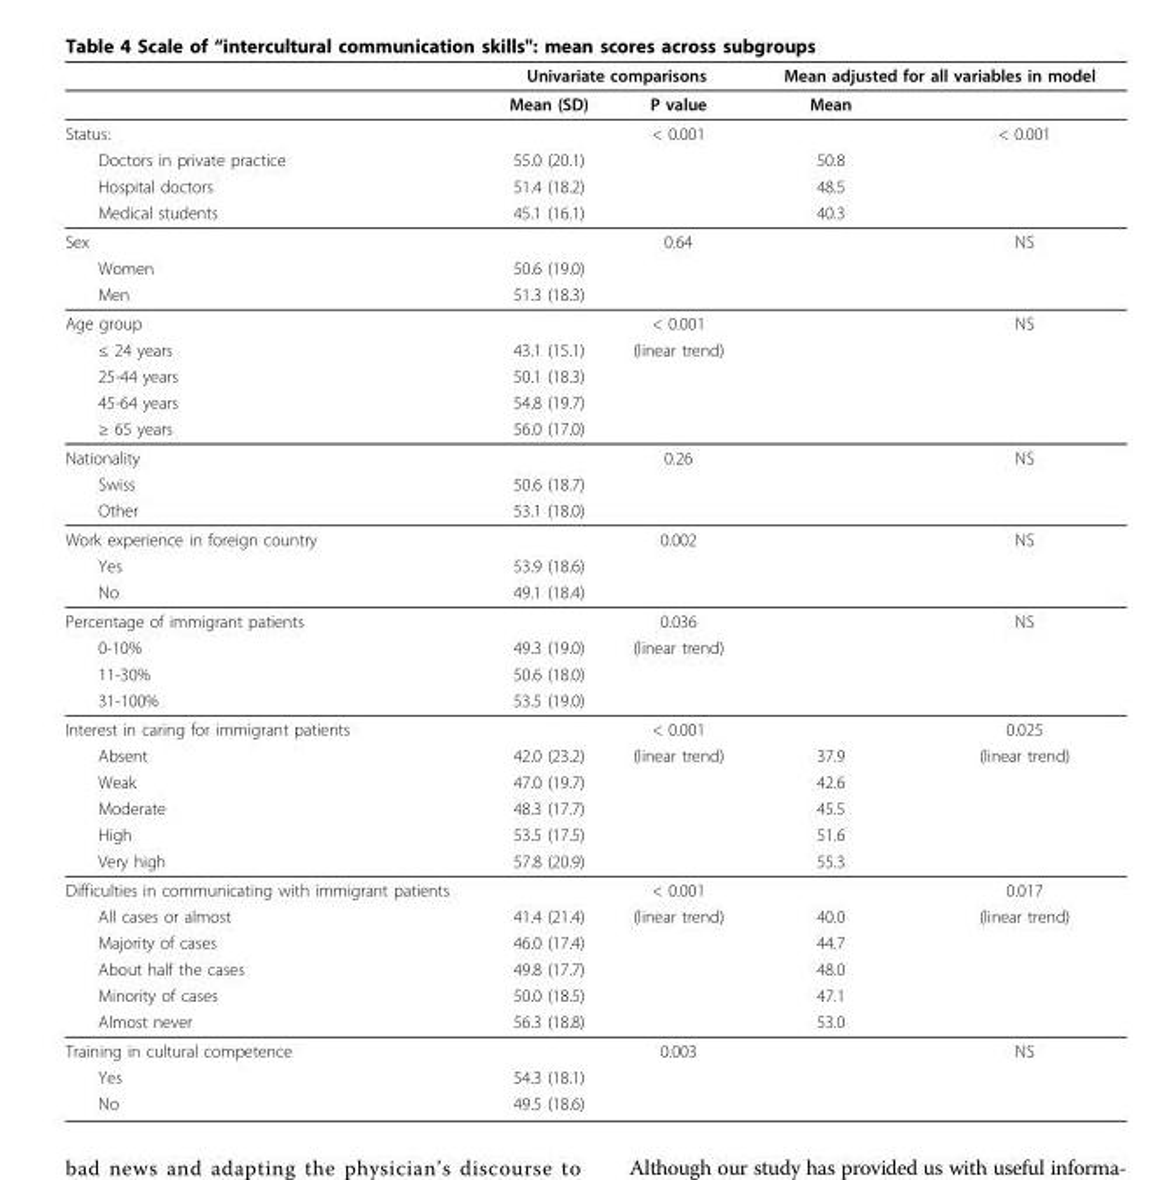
<table><thead><tr><td rowspan="2"></td><td colspan="2">Univariate comparisons</td><td colspan="2">Mean adjusted for all variables in model</td></tr><tr><td>Mean (SD)</td><td>P value</td><td>Mean</td><td></td></tr></thead><tbody><tr><td>Status:</td><td></td><td>&lt; 0.001</td><td></td><td>&lt; 0.001</td></tr><tr><td>Doctors in private practice</td><td>55.0 (20.1)</td><td></td><td>50.8</td><td></td></tr><tr><td>Hospital doctors</td><td>51.4 (18.2)</td><td></td><td>48.5</td><td></td></tr><tr><td>Medical students</td><td>45.1 (16.1)</td><td></td><td>40.3</td><td></td></tr><tr><td>Sex</td><td></td><td>0.64</td><td></td><td>NS</td></tr><tr><td>Women</td><td>50.6 (19.0)</td><td></td><td></td><td></td></tr><tr><td>Men</td><td>51.3 (18.3)</td><td></td><td></td><td></td></tr><tr><td>Age group</td><td></td><td>&lt; 0.001</td><td></td><td>NS</td></tr><tr><td>≤ 24 years</td><td>43.1 (15.1)</td><td>(linear trend)</td><td></td><td></td></tr><tr><td>25-44 years</td><td>50.1 (18.3)</td><td></td><td></td><td></td></tr><tr><td>45-64 years</td><td>54.8 (19.7)</td><td></td><td></td><td></td></tr><tr><td>≥ 65 years</td><td>56.0 (17.0)</td><td></td><td></td><td></td></tr><tr><td>Nationality</td><td></td><td>0.26</td><td></td><td>NS</td></tr><tr><td>Swiss</td><td>50.6 (18.7)</td><td></td><td></td><td></td></tr><tr><td>Other</td><td>53.1 (18.0)</td><td></td><td></td><td></td></tr><tr><td>Work experience in foreign country</td><td></td><td>0.002</td><td></td><td>NS</td></tr><tr><td>Yes</td><td>53.9 (18.6)</td><td></td><td></td><td></td></tr><tr><td>No</td><td>49.1 (18.4)</td><td></td><td></td><td></td></tr><tr><td>Percentage of immigrant patients</td><td></td><td>0.036</td><td></td><td>NS</td></tr><tr><td>0-10%</td><td>49.3 (19.0)</td><td>(linear trend)</td><td></td><td></td></tr><tr><td>11-30%</td><td>50.6 (18.0)</td><td></td><td></td><td></td></tr><tr><td>31-100%</td><td>53.5 (19.0)</td><td></td><td></td><td></td></tr><tr><td>Interest in caring for immigrant patients</td><td></td><td>&lt; 0.001</td><td></td><td>0.025</td></tr><tr><td>Absent</td><td>42.0 (23.2)</td><td>(linear trend)</td><td>37.9</td><td>(linear trend)</td></tr><tr><td>Weak</td><td>47.0 (19.7)</td><td></td><td>42.6</td><td></td></tr><tr><td>Moderate</td><td>48.3 (17.7)</td><td></td><td>45.5</td><td></td></tr><tr><td>High</td><td>53.5 (17.5)</td><td></td><td>51.6</td><td></td></tr><tr><td>Very high</td><td>57.8 (20.9)</td><td></td><td>55.3</td><td></td></tr><tr><td>Difficulties in communicating with immigrant patients</td><td></td><td>&lt; 0.001</td><td></td><td>0.017</td></tr><tr><td>All cases or almost</td><td>41.4 (21.4)</td><td>(linear trend)</td><td>40.0</td><td>(linear trend)</td></tr><tr><td>Majority of cases</td><td>46.0 (17.4)</td><td></td><td>44.7</td><td></td></tr><tr><td>About half the cases</td><td>49.8 (17.7)</td><td></td><td>48.0</td><td></td></tr><tr><td>Minority of cases</td><td>50.0 (18.5)</td><td></td><td>47.1</td><td></td></tr><tr><td>Almost never</td><td>56.3 (18.8)</td><td></td><td>53.0</td><td></td></tr><tr><td>Training in cultural competence</td><td></td><td>0.003</td><td></td><td>NS</td></tr><tr><td>Yes</td><td>54.3 (18.1)</td><td></td><td></td><td></td></tr><tr><td>No</td><td>49.5 (18.6)</td><td></td><td></td><td></td></tr></tbody></table>